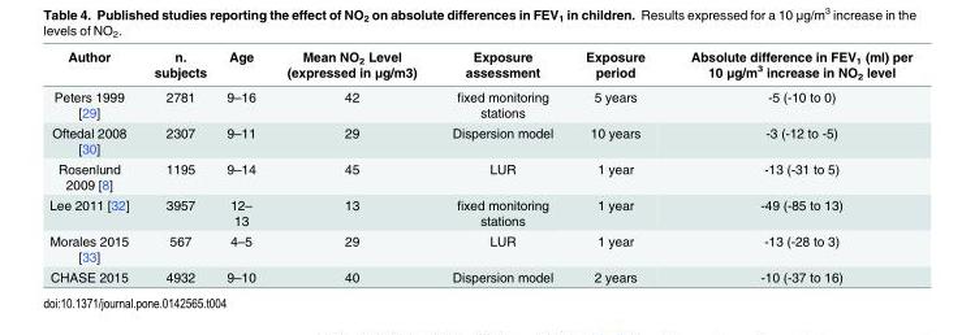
<table><thead><tr><td>Author</td><td>n. subjects</td><td>Age</td><td>Mean NO<sub>2</sub> Level (expressed in μg/m3)</td><td>Exposure assessment</td><td>Exposure period</td><td>Absolute difference in FEV<sub>1</sub> (ml) per 10 μg/m<sup>3</sup> increase in NO<sub>2</sub> level</td></tr></thead><tbody><tr><td>Peters 1999 [29]</td><td>2781</td><td>9–16</td><td>42</td><td>fixed monitoring stations</td><td>5 years</td><td>-5 (-10 to 0)</td></tr><tr><td>Oftedal 2008 [30]</td><td>2307</td><td>9–11</td><td>29</td><td>Dispersion model</td><td>10 years</td><td>-3 (-12 to -5)</td></tr><tr><td>Rosenlund 2009 [8]</td><td>1195</td><td>9–14</td><td>45</td><td>LUR</td><td>1 year</td><td>-13 (-31 to 5)</td></tr><tr><td>Lee 2011 [32]</td><td>3957</td><td>12– 13</td><td>13</td><td>fixed monitoring stations</td><td>1 year</td><td>-49 (-85 to 13)</td></tr><tr><td>Morales 2015 [33]</td><td>567</td><td>4–5</td><td>29</td><td>LUR</td><td>1 year</td><td>-13 (-28 to 3)</td></tr><tr><td>CHASE 2015</td><td>4932</td><td>9–10</td><td>40</td><td>Dispersion model</td><td>2 years</td><td>-10 (-37 to 16)</td></tr></tbody></table>